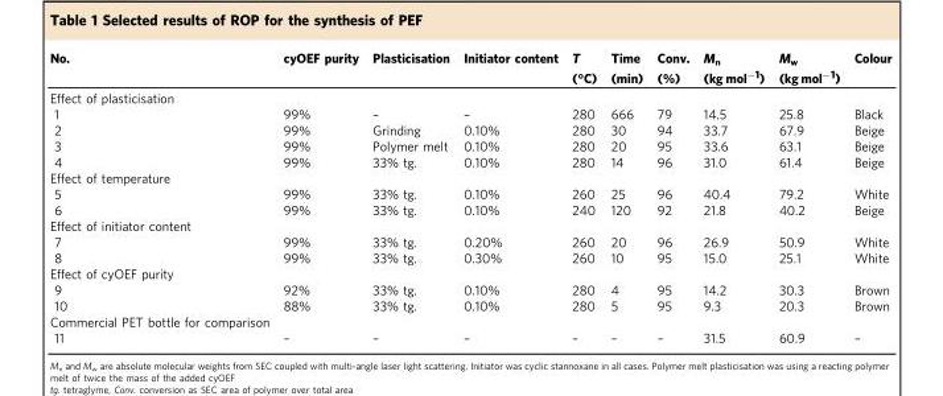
<table><thead><tr><td rowspan="2">No.</td><td rowspan="2">cyOEF purity</td><td rowspan="2">Plasticisation</td><td rowspan="2">Initiator content</td><td rowspan="2">T (°C)</td><td rowspan="2">Time (min)</td><td rowspan="2">Conv. (%)</td><td rowspan="2">M<sub>n</sub> (kg mol<sup>−1</sup>)</td><td rowspan="2">M<sub>w</sub> (kg mol<sup>−1</sup>)</td><td rowspan="2">Colour</td></tr><tr></tr></thead><tbody><tr><td colspan="10">Effect of plasticisation</td></tr><tr><td>1</td><td>99%</td><td>–</td><td>–</td><td>280</td><td>666</td><td>79</td><td>14.5</td><td>25.8</td><td>Black</td></tr><tr><td>2</td><td>99%</td><td>Grinding</td><td>0.10%</td><td>280</td><td>30</td><td>94</td><td>33.7</td><td>67.9</td><td>Beige</td></tr><tr><td>3</td><td>99%</td><td>Polymer melt</td><td>0.10%</td><td>280</td><td>20</td><td>95</td><td>33.6</td><td>63.1</td><td>Beige</td></tr><tr><td>4</td><td>99%</td><td>33% tg.</td><td>0.10%</td><td>280</td><td>14</td><td>96</td><td>31.0</td><td>61.4</td><td>Beige</td></tr><tr><td colspan="10">Effect of temperature</td></tr><tr><td>5</td><td>99%</td><td>33% tg.</td><td>0.10%</td><td>260</td><td>25</td><td>96</td><td>40.4</td><td>79.2</td><td>White</td></tr><tr><td>6</td><td>99%</td><td>33% tg.</td><td>0.10%</td><td>240</td><td>120</td><td>92</td><td>21.8</td><td>40.2</td><td>Beige</td></tr><tr><td colspan="10">Effect of initiator content</td></tr><tr><td>7</td><td>99%</td><td>33% tg.</td><td>0.20%</td><td>260</td><td>20</td><td>96</td><td>26.9</td><td>50.9</td><td>White</td></tr><tr><td>8</td><td>99%</td><td>33% tg.</td><td>0.30%</td><td>260</td><td>10</td><td>95</td><td>15.0</td><td>25.1</td><td>White</td></tr><tr><td colspan="10">Effect of cyOEF purity</td></tr><tr><td>9</td><td>92%</td><td>33% tg.</td><td>0.10%</td><td>280</td><td>4</td><td>95</td><td>14.2</td><td>30.3</td><td>Brown</td></tr><tr><td>10</td><td>88%</td><td>33% tg.</td><td>0.10%</td><td>280</td><td>5</td><td>95</td><td>9.3</td><td>20.3</td><td>Brown</td></tr><tr><td colspan="10">Commercial PET bottle for comparison</td></tr><tr><td>11</td><td>–</td><td>–</td><td>–</td><td>–</td><td>–</td><td>–</td><td>31.5</td><td>60.9</td><td>–</td></tr></tbody></table>